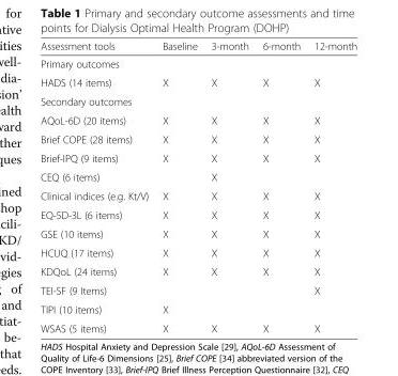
<table><thead><tr><td>Assessment tools</td><td>Baseline</td><td>3-month</td><td>6-month</td><td>12-month</td></tr></thead><tbody><tr><td colspan="5">Primary outcomes</td></tr><tr><td>HADS (14 items)</td><td>X</td><td>X</td><td>X</td><td>X</td></tr><tr><td colspan="5">Secondary outcomes</td></tr><tr><td>AQoL-6D (20 items)</td><td>X</td><td>X</td><td>X</td><td>X</td></tr><tr><td>Brief COPE (28 items)</td><td>X</td><td>X</td><td>X</td><td>X</td></tr><tr><td>Brief-IPQ (9 items)</td><td>X</td><td>X</td><td>X</td><td>X</td></tr><tr><td>CEQ (6 items)</td><td></td><td>X</td><td></td><td></td></tr><tr><td>Clinical indices (e.g. Kt/V)</td><td>X</td><td>X</td><td>X</td><td>X</td></tr><tr><td>EQ-5D-3L (6 items)</td><td>X</td><td>X</td><td>X</td><td>X</td></tr><tr><td>GSE (10 items)</td><td>X</td><td>X</td><td>X</td><td>X</td></tr><tr><td>HCUQ (17 items)</td><td>X</td><td>X</td><td>X</td><td>X</td></tr><tr><td>KDQoL (24 items)</td><td>X</td><td>X</td><td>X</td><td>X</td></tr><tr><td>TEI-SF (9 Items)</td><td></td><td></td><td></td><td>X</td></tr><tr><td>TIPI (10 items)</td><td>X</td><td></td><td></td><td></td></tr><tr><td>WSAS (5 items)</td><td>X</td><td>X</td><td>X</td><td>X</td></tr></tbody></table>